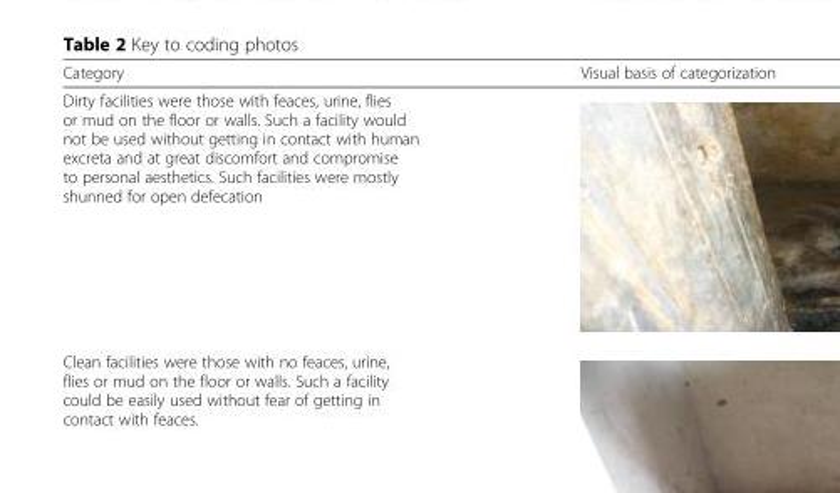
<table><thead><tr><td>Category</td><td>Visual basis of categorization</td></tr></thead><tbody><tr><td colspan="2">Dirty facilities were those with feaces, urine, flies or mud on the floor or walls. Such a facility would not be used without getting in contact with human excreta and at great discomfort and compromise to personal aesthetics. Such facilities were mostly shunned for open defecation</td></tr><tr><td>Clean facilities were those with no feaces, urine, flies or mud on the floor or walls. Such a facility could be easily used without fear of getting in contact with feaces.</td><td></td></tr></tbody></table>